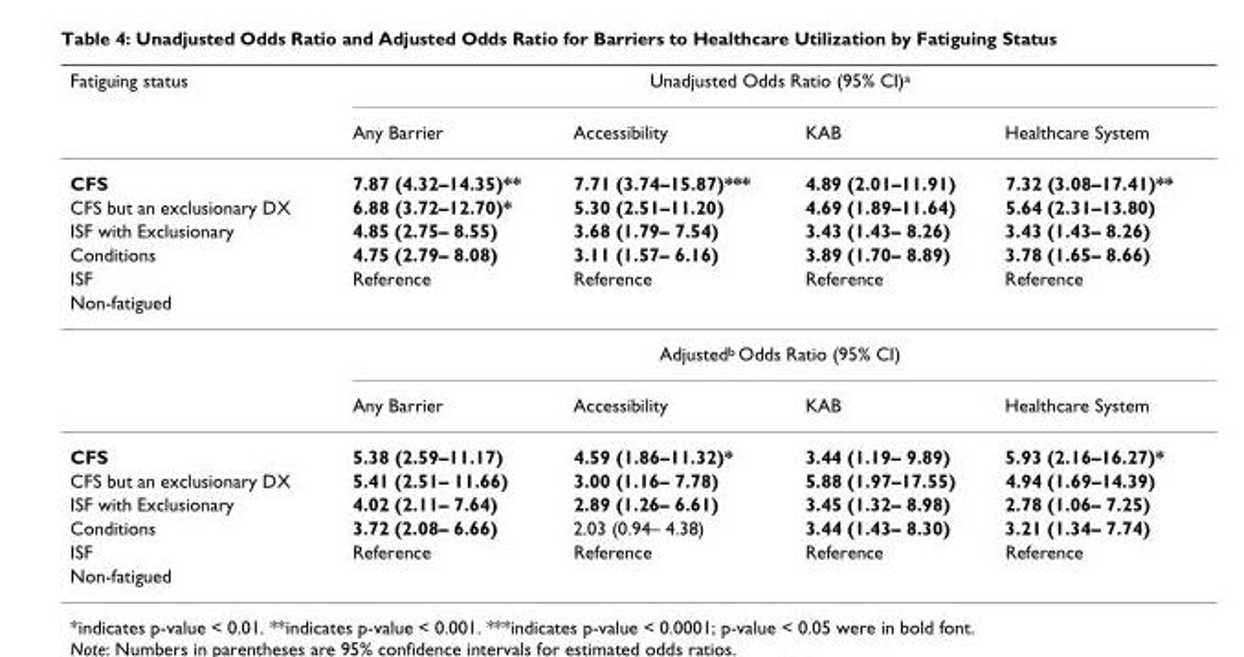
<table><thead><tr><td rowspan="2">Fatiguing status</td><td colspan="4">Unadjusted Odds Ratio (95% CI)<sup>a</sup></td></tr><tr><td>Any Barrier</td><td>Accessibility</td><td>KAB</td><td>Healthcare System</td></tr></thead><tbody><tr><td>CFS</td><td>7.87 (4.32–14.35)**</td><td>7.71 (3.74–15.87)***</td><td>4.89 (2.01–11.91)</td><td>7.32 (3.08–17.41)**</td></tr><tr><td>CFS but an exclusionary DX</td><td>6.88 (3.72–12.70)*</td><td>5.30 (2.51–11.20)</td><td>4.69 (1.89–11.64)</td><td>5.64 (2.31–13.80)</td></tr><tr><td>ISF with Exclusionary</td><td>4.85 (2.75– 8.55)</td><td>3.68 (1.79– 7.54)</td><td>3.43 (1.43– 8.26)</td><td>3.43 (1.43– 8.26)</td></tr><tr><td>Conditions</td><td>4.75 (2.79– 8.08)</td><td>3.11 (1.57– 6.16)</td><td>3.89 (1.70– 8.89)</td><td>3.78 (1.65– 8.66)</td></tr><tr><td>ISF</td><td>Reference</td><td>Reference</td><td>Reference</td><td>Reference</td></tr><tr><td colspan="5">Non-fatigued</td></tr><tr><td></td><td colspan="4">Adjusted<sup>b</sup> Odds Ratio (95% CI)</td></tr><tr><td></td><td>Any Barrier</td><td>Accessibility</td><td>KAB</td><td>Healthcare System</td></tr><tr><td>CFS</td><td>5.38 (2.59–11.17)</td><td>4.59 (1.86–11.32)*</td><td>3.44 (1.19– 9.89)</td><td>5.93 (2.16–16.27)*</td></tr><tr><td>CFS but an exclusionary DX</td><td>5.41 (2.51– 11.66)</td><td>3.00 (1.16– 7.78)</td><td>5.88 (1.97–17.55)</td><td>4.94 (1.69–14.39)</td></tr><tr><td>ISF with Exclusionary</td><td>4.02 (2.11– 7.64)</td><td>2.89 (1.26– 6.61)</td><td>3.45 (1.32– 8.98)</td><td>2.78 (1.06– 7.25)</td></tr><tr><td>Conditions</td><td>3.72 (2.08– 6.66)</td><td>2.03 (0.94– 4.38)</td><td>3.44 (1.43– 8.30)</td><td>3.21 (1.34– 7.74)</td></tr><tr><td>ISF</td><td>Reference</td><td>Reference</td><td>Reference</td><td>Reference</td></tr><tr><td>Non-fatigued</td><td></td><td></td><td></td><td></td></tr></tbody></table>